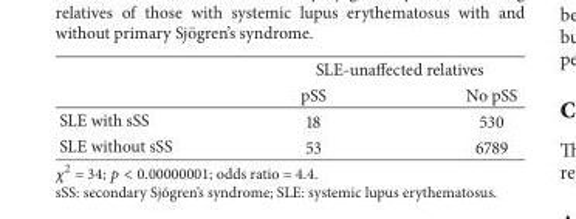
<table><thead><tr><td rowspan="2"></td><td colspan="2">SLE-unaffected relatives</td></tr><tr><td>pSS</td><td>No pSS</td></tr></thead><tbody><tr><td>SLE with sSS</td><td>18</td><td>530</td></tr><tr><td>SLE without sSS</td><td>53</td><td>6789</td></tr></tbody></table>